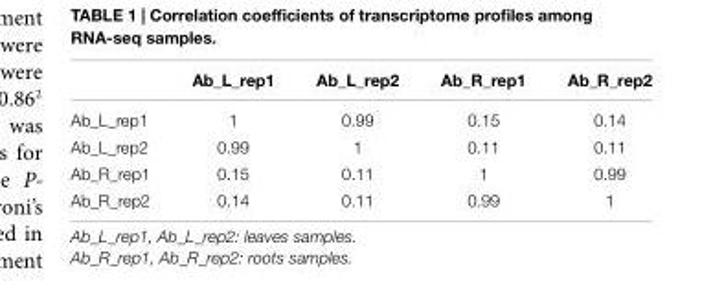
<table><thead><tr><td></td><td>Ab_L_rep1</td><td>Ab_L_rep2</td><td>Ab_R_rep1</td><td>Ab_R_rep2</td></tr></thead><tbody><tr><td>Ab_L_rep1</td><td>1</td><td>0.99</td><td>0.15</td><td>0.14</td></tr><tr><td>Ab_L_rep2</td><td>0.99</td><td>1</td><td>0.11</td><td>0.11</td></tr><tr><td>Ab_R_rep1</td><td>0.15</td><td>0.11</td><td>1</td><td>0.99</td></tr><tr><td>Ab_R_rep2</td><td>0.14</td><td>0.11</td><td>0.99</td><td>1</td></tr></tbody></table>